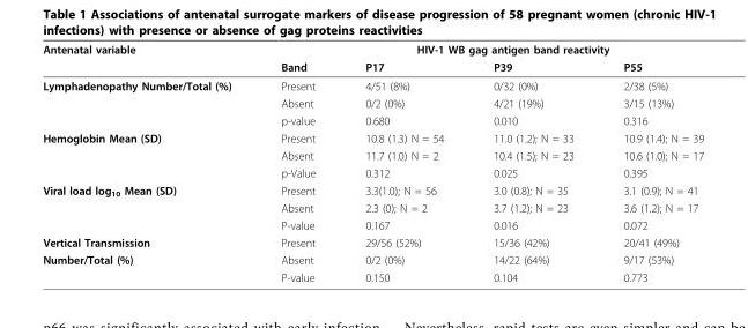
<table><thead><tr><td rowspan="2">Antenatal variable</td><td colspan="4">HIV-1 WB gag antigen band reactivity</td></tr><tr><td>Band</td><td>P17</td><td>P39</td><td>P55</td></tr></thead><tbody><tr><td rowspan="3">Lymphadenopathy Number/Total (%)</td><td>Present</td><td>4/51 (8%)</td><td>0/32 (0%)</td><td>2/38 (5%)</td></tr><tr><td>Absent</td><td>0/2 (0%)</td><td>4/21 (19%)</td><td>3/15 (13%)</td></tr><tr><td>p-value</td><td>0.680</td><td>0.010</td><td>0.316</td></tr><tr><td rowspan="3">Hemoglobin Mean (SD)</td><td>Present</td><td>10.8 (1.3) N = 54</td><td>11.0 (1.2); N = 33</td><td>10.9 (1.4); N = 39</td></tr><tr><td>Absent</td><td>11.7 (1.0) N = 2</td><td>10.4 (1.5); N = 23</td><td>10.6 (1.0); N = 17</td></tr><tr><td>p-Value</td><td>0.312</td><td>0.025</td><td>0.395</td></tr><tr><td rowspan="3">Viral load log<sub>10</sub> Mean (SD)</td><td>Present</td><td>3.3(1.0); N = 56</td><td>3.0 (0.8); N = 35</td><td>3.1 (0.9); N = 41</td></tr><tr><td>Absent</td><td>2.3 (0); N = 2</td><td>3.7 (1.2); N = 23</td><td>3.6 (1.2); N = 17</td></tr><tr><td>P-value</td><td>0.167</td><td>0.016</td><td>0.072</td></tr><tr><td>Vertical Transmission</td><td>Present</td><td>29/56 (52%)</td><td>15/36 (42%)</td><td>20/41 (49%)</td></tr><tr><td rowspan="2">Number/Total (%)</td><td>Absent</td><td>0/2 (0%)</td><td>14/22 (64%)</td><td>9/17 (53%)</td></tr><tr><td>P-value</td><td>0.150</td><td>0.104</td><td>0.773</td></tr></tbody></table>